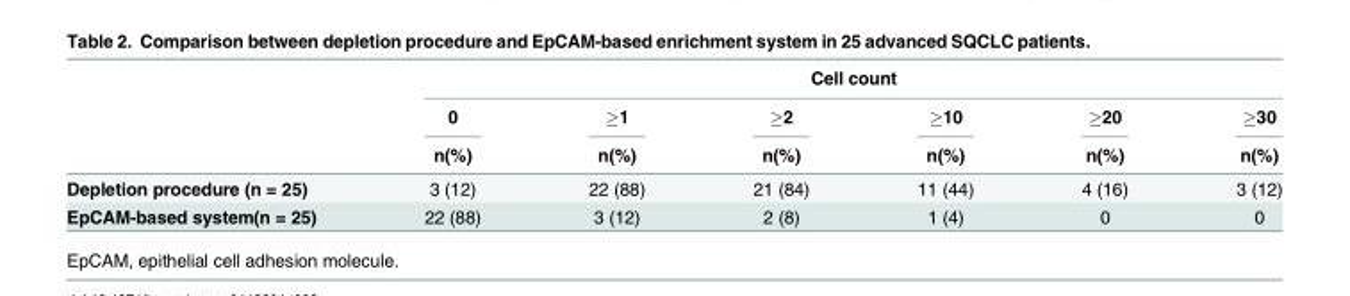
<table><thead><tr><td rowspan="3"></td><td colspan="6">Cell count</td></tr><tr><td rowspan="2">0 n(%)</td><td rowspan="2">≥1 n(%)</td><td rowspan="2">≥2 n(%)</td><td rowspan="2">≥10 n(%)</td><td rowspan="2">≥20 n(%)</td><td rowspan="2">≥30 n(%)</td></tr><tr></tr></thead><tbody><tr><td>Depletion procedure (n = 25)</td><td>3 (12)</td><td>22 (88)</td><td>21 (84)</td><td>11 (44)</td><td>4 (16)</td><td>3 (12)</td></tr><tr><td>EpCAM-based system(n = 25)</td><td>22 (88)</td><td>3 (12)</td><td>2 (8)</td><td>1 (4)</td><td>0</td><td>0</td></tr></tbody></table>